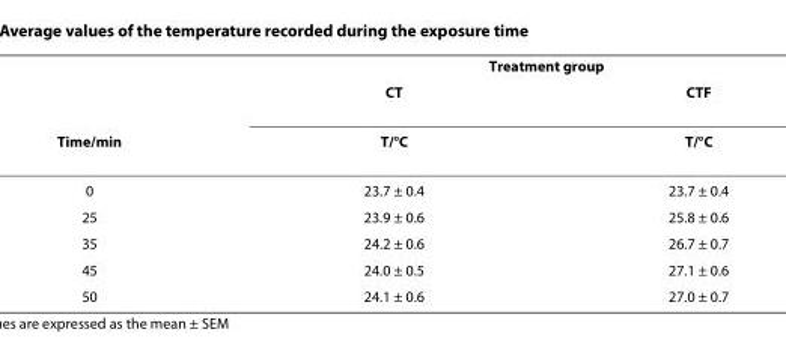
<table><thead><tr><td rowspan="3">Time/min</td><td colspan="2">Treatment group</td></tr><tr><td rowspan="2">CT T/°C</td><td rowspan="2">CTF T/°C</td></tr><tr></tr></thead><tbody><tr><td>0</td><td>23.7 ± 0.4</td><td>23.7 ± 0.4</td></tr><tr><td>25</td><td>23.9 ± 0.6</td><td>25.8 ± 0.6</td></tr><tr><td>35</td><td>24.2 ± 0.6</td><td>26.7 ± 0.7</td></tr><tr><td>45</td><td>24.0 ± 0.5</td><td>27.1 ± 0.6</td></tr><tr><td>50</td><td>24.1 ± 0.6</td><td>27.0 ± 0.7</td></tr></tbody></table>